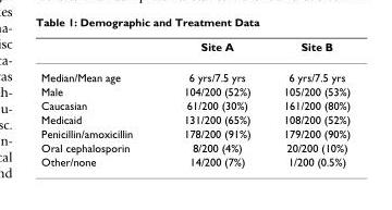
<table><thead><tr><td></td><td>Site A</td><td>Site B</td></tr></thead><tbody><tr><td>Median/Mean age</td><td>6 yrs/7.5 yrs</td><td>6 yrs/7.5 yrs</td></tr><tr><td>Male</td><td>104/200 (52%)</td><td>105/200 (53%)</td></tr><tr><td>Caucasian</td><td>61/200 (30%)</td><td>161/200 (80%)</td></tr><tr><td>Medicaid</td><td>131/200 (65%)</td><td>108/200 (52%)</td></tr><tr><td>Penicillin/amoxicillin</td><td>178/200 (91%)</td><td>179/200 (90%)</td></tr><tr><td>Oral cephalosporin</td><td>8/200 (4%)</td><td>20/200 (10%)</td></tr><tr><td>Other/none</td><td>14/200 (7%)</td><td>1/200 (0.5%)</td></tr></tbody></table>